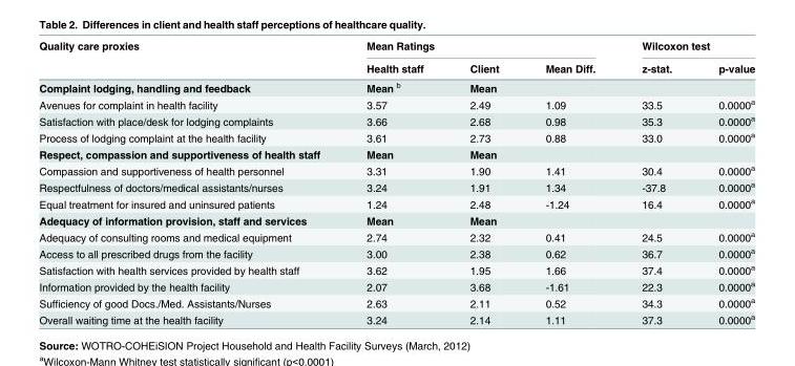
<table><thead><tr><td rowspan="2">Quality care proxies</td><td colspan="3">Mean Ratings</td><td colspan="2">Wilcoxon test</td></tr><tr><td>Health staff</td><td>Client</td><td>Mean Diff.</td><td>z-stat.</td><td>p-value</td></tr></thead><tbody><tr><td>Complaint lodging, handling and feedback</td><td>Mean <sup>b</sup></td><td>Mean</td><td></td><td></td><td></td></tr><tr><td>Avenues for complaint in health facility</td><td>3.57</td><td>2.49</td><td>1.09</td><td>33.5</td><td>0.0000<sup>a</sup></td></tr><tr><td>Satisfaction with place/desk for lodging complaints</td><td>3.66</td><td>2.68</td><td>0.98</td><td>35.3</td><td>0.0000<sup>a</sup></td></tr><tr><td>Process of lodging complaint at the health facility</td><td>3.61</td><td>2.73</td><td>0.88</td><td>33.0</td><td>0.0000<sup>a</sup></td></tr><tr><td>Respect, compassion and supportiveness of health staff</td><td>Mean</td><td>Mean</td><td></td><td></td><td></td></tr><tr><td>Compassion and supportiveness of health personnel</td><td>3.31</td><td>1.90</td><td>1.41</td><td>30.4</td><td>0.0000<sup>a</sup></td></tr><tr><td>Respectfulness of doctors/medical assistants/nurses</td><td>3.24</td><td>1.91</td><td>1.34</td><td>-37.8</td><td>0.0000<sup>a</sup></td></tr><tr><td>Equal treatment for insured and uninsured patients</td><td>1.24</td><td>2.48</td><td>-1.24</td><td>16.4</td><td>0.0000<sup>a</sup></td></tr><tr><td>Adequacy of information provision, staff and services</td><td>Mean</td><td>Mean</td><td></td><td></td><td></td></tr><tr><td>Adequacy of consulting rooms and medical equipment</td><td>2.74</td><td>2.32</td><td>0.41</td><td>24.5</td><td>0.0000<sup>a</sup></td></tr><tr><td>Access to all prescribed drugs from the facility</td><td>3.00</td><td>2.38</td><td>0.62</td><td>36.7</td><td>0.0000<sup>a</sup></td></tr><tr><td>Satisfaction with health services provided by health staff</td><td>3.62</td><td>1.95</td><td>1.66</td><td>37.4</td><td>0.0000<sup>a</sup></td></tr><tr><td>Information provided by the health facility</td><td>2.07</td><td>3.68</td><td>-1.61</td><td>22.3</td><td>0.0000<sup>a</sup></td></tr><tr><td>Sufficiency of good Docs./Med. Assistants/Nurses</td><td>2.63</td><td>2.11</td><td>0.52</td><td>34.3</td><td>0.0000<sup>a</sup></td></tr><tr><td>Overall waiting time at the health facility</td><td>3.24</td><td>2.14</td><td>1.11</td><td>37.3</td><td>0.0000<sup>a</sup></td></tr></tbody></table>